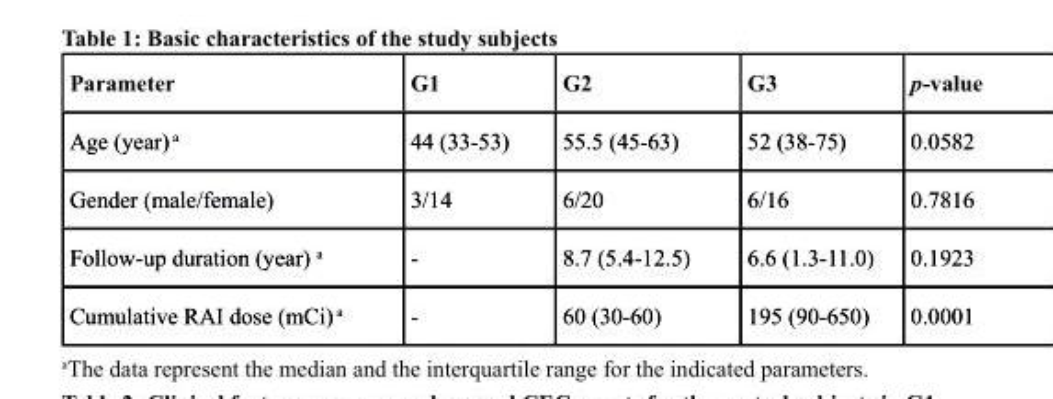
<table><thead><tr><td>Parameter</td><td>G1</td><td>G2</td><td>G3</td><td>p-value</td></tr></thead><tbody><tr><td>Age (year) <sup>a</sup></td><td>44 (33-53)</td><td>55.5 (45-63)</td><td>52 (38-75)</td><td>0.0582</td></tr><tr><td>Gender (male/female)</td><td>3/14</td><td>6/20</td><td>6/16</td><td>0.7816</td></tr><tr><td>Follow-up duration (year) <sup>a</sup></td><td>-</td><td>8.7 (5.4-12.5)</td><td>6.6 (1.3-11.0)</td><td>0.1923</td></tr><tr><td>Cumulative RAI dose (mCi) <sup>a</sup></td><td>-</td><td>60 (30-60)</td><td>195 (90-650)</td><td>0.0001</td></tr></tbody></table>